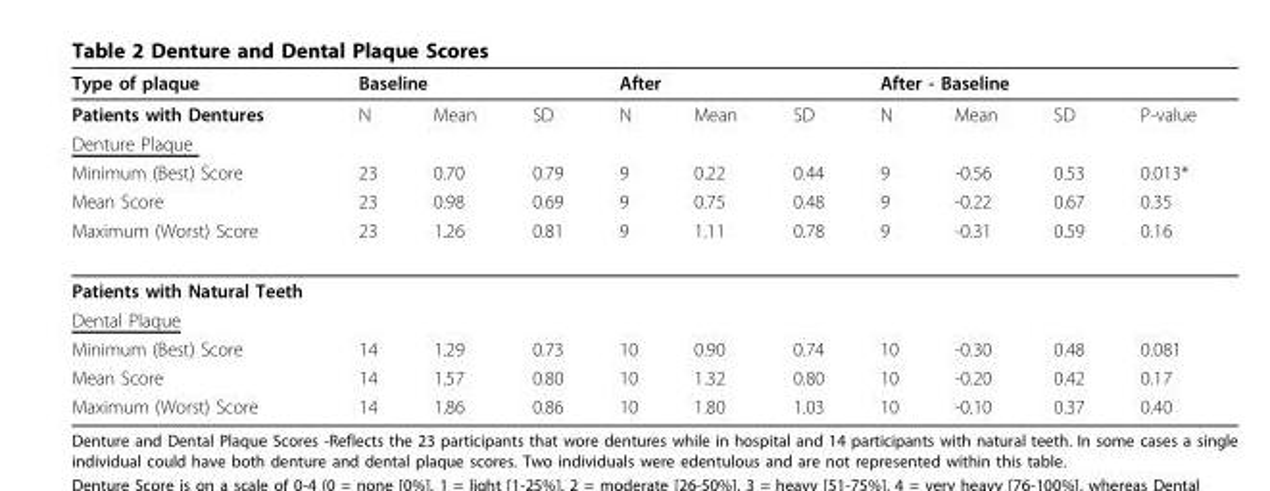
<table><thead><tr><td rowspan="2">Type of plaque Patients with Dentures</td><td colspan="3">Baseline</td><td colspan="3">After</td><td colspan="4">After - Baseline</td></tr><tr><td>N</td><td>Mean</td><td>SD</td><td>N</td><td>Mean</td><td>SD</td><td>N</td><td>Mean</td><td>SD</td><td>P-value</td></tr></thead><tbody><tr><td colspan="11">Denture Plaque</td></tr><tr><td>Minimum (Best) Score</td><td>23</td><td>0.70</td><td>0.79</td><td>9</td><td>0.22</td><td>0.44</td><td>9</td><td>-0.56</td><td>0.53</td><td>0.013*</td></tr><tr><td>Mean Score</td><td>23</td><td>0.98</td><td>0.69</td><td>9</td><td>0.75</td><td>0.48</td><td>9</td><td>-0.22</td><td>0.67</td><td>0.35</td></tr><tr><td>Maximum (Worst) Score</td><td>23</td><td>1.26</td><td>0.81</td><td>9</td><td>1.11</td><td>0.78</td><td>9</td><td>-0.31</td><td>0.59</td><td>0.16</td></tr><tr><td colspan="11">Patients with Natural Teeth</td></tr><tr><td colspan="11">Dental Plaque</td></tr><tr><td>Minimum (Best) Score</td><td>14</td><td>1.29</td><td>0.73</td><td>10</td><td>0.90</td><td>0.74</td><td>10</td><td>-0.30</td><td>0.48</td><td>0.081</td></tr><tr><td>Mean Score</td><td>14</td><td>1.57</td><td>0.80</td><td>10</td><td>1.32</td><td>0.80</td><td>10</td><td>-0.20</td><td>0.42</td><td>0.17</td></tr><tr><td>Maximum (Worst) Score</td><td>14</td><td>1.86</td><td>0.86</td><td>10</td><td>1.80</td><td>1.03</td><td>10</td><td>-0.10</td><td>0.37</td><td>0.40</td></tr></tbody></table>